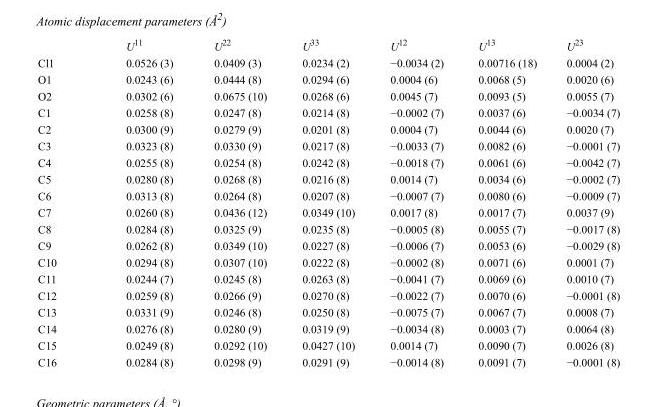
<table><thead><tr><td></td><td>U<sup>11</sup></td><td>U<sup>22</sup></td><td>U<sup>33</sup></td><td>U<sup>12</sup></td><td>U<sup>13</sup></td><td>U<sup>23</sup></td></tr></thead><tbody><tr><td>Cl1</td><td>0.0526 (3)</td><td>0.0409 (3)</td><td>0.0234 (2)</td><td>−0.0034 (2)</td><td>0.00716 (18)</td><td>0.0004 (2)</td></tr><tr><td>O1</td><td>0.0243 (6)</td><td>0.0444 (8)</td><td>0.0294 (6)</td><td>0.0004 (6)</td><td>0.0068 (5)</td><td>0.0020 (6)</td></tr><tr><td>O2</td><td>0.0302 (6)</td><td>0.0675 (10)</td><td>0.0268 (6)</td><td>0.0045 (7)</td><td>0.0093 (5)</td><td>0.0055 (7)</td></tr><tr><td>C1</td><td>0.0258 (8)</td><td>0.0247 (8)</td><td>0.0214 (8)</td><td>−0.0002 (7)</td><td>0.0037 (6)</td><td>−0.0034 (7)</td></tr><tr><td>C2</td><td>0.0300 (9)</td><td>0.0279 (9)</td><td>0.0201 (8)</td><td>0.0004 (7)</td><td>0.0044 (6)</td><td>0.0020 (7)</td></tr><tr><td>C3</td><td>0.0323 (8)</td><td>0.0330 (9)</td><td>0.0217 (8)</td><td>−0.0033 (7)</td><td>0.0082 (6)</td><td>−0.0001 (7)</td></tr><tr><td>C4</td><td>0.0255 (8)</td><td>0.0254 (8)</td><td>0.0242 (8)</td><td>−0.0018 (7)</td><td>0.0061 (6)</td><td>−0.0042 (7)</td></tr><tr><td>C5</td><td>0.0280 (8)</td><td>0.0268 (8)</td><td>0.0216 (8)</td><td>0.0014 (7)</td><td>0.0034 (6)</td><td>−0.0002 (7)</td></tr><tr><td>C6</td><td>0.0313 (8)</td><td>0.0264 (8)</td><td>0.0207 (8)</td><td>−0.0007 (7)</td><td>0.0080 (6)</td><td>−0.0009 (7)</td></tr><tr><td>C7</td><td>0.0260 (8)</td><td>0.0436 (12)</td><td>0.0349 (10)</td><td>0.0017 (8)</td><td>0.0017 (7)</td><td>0.0037 (9)</td></tr><tr><td>C8</td><td>0.0284 (8)</td><td>0.0325 (9)</td><td>0.0235 (8)</td><td>−0.0005 (8)</td><td>0.0055 (7)</td><td>−0.0017 (8)</td></tr><tr><td>C9</td><td>0.0262 (8)</td><td>0.0349 (10)</td><td>0.0227 (8)</td><td>−0.0006 (7)</td><td>0.0053 (6)</td><td>−0.0029 (8)</td></tr><tr><td>C10</td><td>0.0294 (8)</td><td>0.0307 (10)</td><td>0.0222 (8)</td><td>−0.0002 (8)</td><td>0.0071 (6)</td><td>0.0001 (7)</td></tr><tr><td>C11</td><td>0.0244 (7)</td><td>0.0245 (8)</td><td>0.0263 (8)</td><td>−0.0041 (7)</td><td>0.0069 (6)</td><td>0.0010 (7)</td></tr><tr><td>C12</td><td>0.0259 (8)</td><td>0.0266 (9)</td><td>0.0270 (8)</td><td>−0.0022 (7)</td><td>0.0070 (6)</td><td>−0.0001 (8)</td></tr><tr><td>C13</td><td>0.0331 (9)</td><td>0.0246 (8)</td><td>0.0250 (8)</td><td>−0.0075 (7)</td><td>0.0067 (7)</td><td>0.0008 (7)</td></tr><tr><td>C14</td><td>0.0276 (8)</td><td>0.0280 (9)</td><td>0.0319 (9)</td><td>−0.0034 (8)</td><td>0.0003 (7)</td><td>0.0064 (8)</td></tr><tr><td>C15</td><td>0.0249 (8)</td><td>0.0292 (10)</td><td>0.0427 (10)</td><td>0.0014 (7)</td><td>0.0090 (7)</td><td>0.0026 (8)</td></tr><tr><td>C16</td><td>0.0284 (8)</td><td>0.0298 (9)</td><td>0.0291 (9)</td><td>−0.0014 (8)</td><td>0.0091 (7)</td><td>−0.0001 (8)</td></tr></tbody></table>